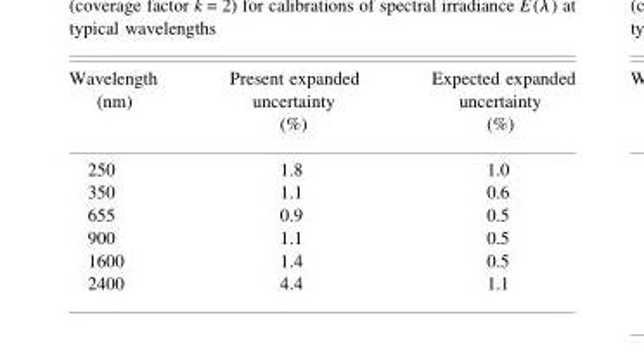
<table><thead><tr><td>Wavelength (nm)</td><td>Present expanded uncertainty (%)</td><td>Expected expanded uncertainty (%)</td></tr></thead><tbody><tr><td>250</td><td>1.8</td><td>1.0</td></tr><tr><td>350</td><td>1.1</td><td>0.6</td></tr><tr><td>655</td><td>0.9</td><td>0.5</td></tr><tr><td>900</td><td>1.1</td><td>0.5</td></tr><tr><td>1600</td><td>1.4</td><td>0.5</td></tr><tr><td>2400</td><td>4.4</td><td>1.1</td></tr></tbody></table>